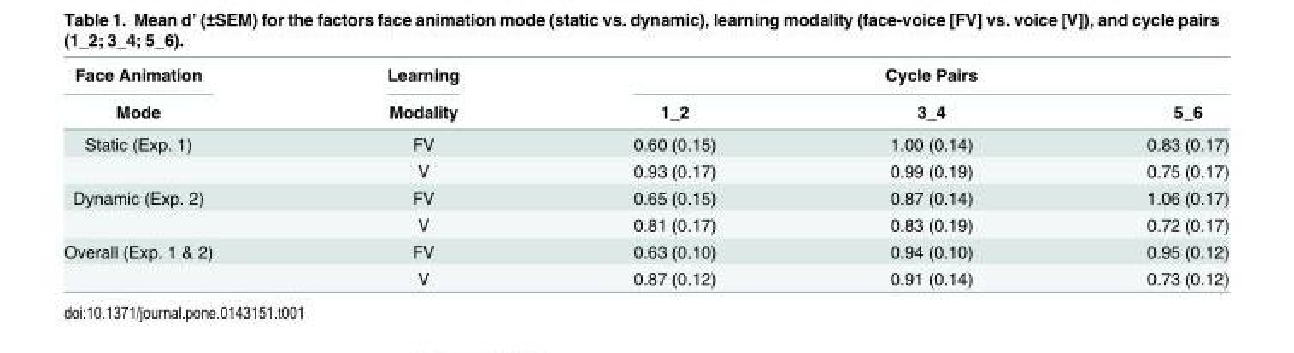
<table><thead><tr><td rowspan="2">Face Animation Mode</td><td rowspan="2">Learning Modality</td><td colspan="3">Cycle Pairs</td></tr><tr><td>1_2</td><td>3_4</td><td>5_6</td></tr></thead><tbody><tr><td rowspan="2">Static (Exp. 1)</td><td>FV</td><td>0.60 (0.15)</td><td>1.00 (0.14)</td><td>0.83 (0.17)</td></tr><tr><td>V</td><td>0.93 (0.17)</td><td>0.99 (0.19)</td><td>0.75 (0.17)</td></tr><tr><td rowspan="2">Dynamic (Exp. 2)</td><td>FV</td><td>0.65 (0.15)</td><td>0.87 (0.14)</td><td>1.06 (0.17)</td></tr><tr><td>V</td><td>0.81 (0.17)</td><td>0.83 (0.19)</td><td>0.72 (0.17)</td></tr><tr><td rowspan="2">Overall (Exp. 1 &amp; 2)</td><td>FV</td><td>0.63 (0.10)</td><td>0.94 (0.10)</td><td>0.95 (0.12)</td></tr><tr><td>V</td><td>0.87 (0.12)</td><td>0.91 (0.14)</td><td>0.73 (0.12)</td></tr></tbody></table>